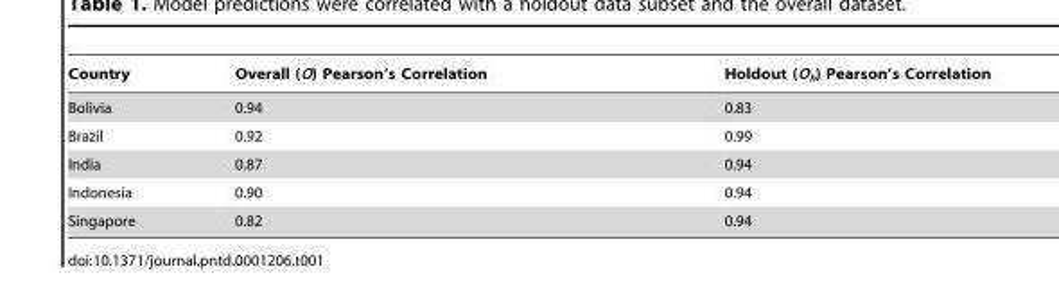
<table><thead><tr><td>Country</td><td>Overall (O) Pearson’s Correlation</td><td>Holdout (O<sub>h</sub>) Pearson’s Correlation</td></tr></thead><tbody><tr><td>Bolivia</td><td>0.94</td><td>0.83</td></tr><tr><td>Brazil</td><td>0.92</td><td>0.99</td></tr><tr><td>India</td><td>0.87</td><td>0.94</td></tr><tr><td>Indonesia</td><td>0.90</td><td>0.94</td></tr><tr><td>Singapore</td><td>0.82</td><td>0.94</td></tr></tbody></table>